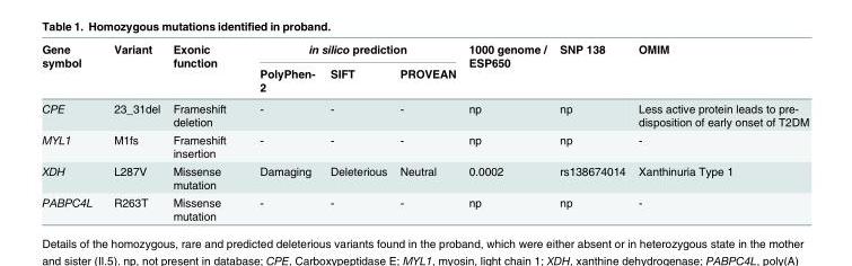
<table><thead><tr><td rowspan="2">Gene symbol</td><td rowspan="2">Variant</td><td rowspan="2">Exonic function</td><td colspan="3">in silico prediction</td><td rowspan="2">1000 genome / ESP650</td><td rowspan="2">SNP 138</td><td rowspan="2">OMIM</td></tr><tr><td>PolyPhen- 2</td><td>SIFT</td><td>PROVEAN</td></tr></thead><tbody><tr><td>CPE</td><td>23_31del</td><td>Frameshift deletion</td><td>-</td><td>-</td><td>-</td><td>np</td><td>np</td><td>Less active protein leads to pre- disposition of early onset of T2DM</td></tr><tr><td>MYL1</td><td>M1fs</td><td>Frameshift insertion</td><td>-</td><td>-</td><td>-</td><td>np</td><td>np</td><td>-</td></tr><tr><td>XDH</td><td>L287V</td><td>Missense mutation</td><td>Damaging</td><td>Deleterious</td><td>Neutral</td><td>0.0002</td><td>rs138674014</td><td>Xanthinuria Type 1</td></tr><tr><td>PABPC4L</td><td>R263T</td><td>Missense mutation</td><td>-</td><td>-</td><td>-</td><td>np</td><td>np</td><td>-</td></tr></tbody></table>